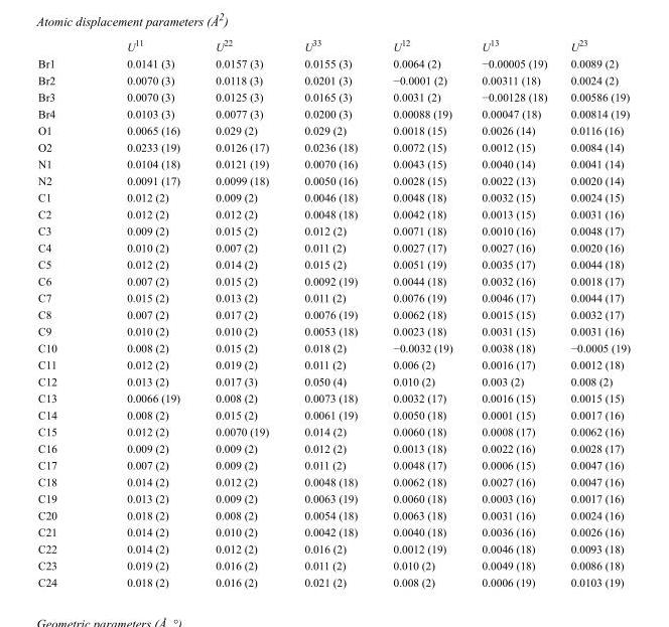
<table><thead><tr><td></td><td>U<sup>11</sup></td><td>U<sup>22</sup></td><td>U<sup>33</sup></td><td>U<sup>12</sup></td><td>U<sup>13</sup></td><td>U<sup>23</sup></td></tr></thead><tbody><tr><td>Br1</td><td>0.0141 (3)</td><td>0.0157 (3)</td><td>0.0155 (3)</td><td>0.0064 (2)</td><td>−0.00005 (19)</td><td>0.0089 (2)</td></tr><tr><td>Br2</td><td>0.0070 (3)</td><td>0.0118 (3)</td><td>0.0201 (3)</td><td>−0.0001 (2)</td><td>0.00311 (18)</td><td>0.0024 (2)</td></tr><tr><td>Br3</td><td>0.0070 (3)</td><td>0.0125 (3)</td><td>0.0165 (3)</td><td>0.0031 (2)</td><td>−0.00128 (18)</td><td>0.00586 (19)</td></tr><tr><td>Br4</td><td>0.0103 (3)</td><td>0.0077 (3)</td><td>0.0200 (3)</td><td>0.00088 (19)</td><td>0.00047 (18)</td><td>0.00814 (19)</td></tr><tr><td>O1</td><td>0.0065 (16)</td><td>0.029 (2)</td><td>0.029 (2)</td><td>0.0018 (15)</td><td>0.0026 (14)</td><td>0.0116 (16)</td></tr><tr><td>O2</td><td>0.0233 (19)</td><td>0.0126 (17)</td><td>0.0236 (18)</td><td>0.0072 (15)</td><td>0.0012 (15)</td><td>0.0084 (14)</td></tr><tr><td>N1</td><td>0.0104 (18)</td><td>0.0121 (19)</td><td>0.0070 (16)</td><td>0.0043 (15)</td><td>0.0040 (14)</td><td>0.0041 (14)</td></tr><tr><td>N2</td><td>0.0091 (17)</td><td>0.0099 (18)</td><td>0.0050 (16)</td><td>0.0028 (15)</td><td>0.0022 (13)</td><td>0.0020 (14)</td></tr><tr><td>C1</td><td>0.012 (2)</td><td>0.009 (2)</td><td>0.0046 (18)</td><td>0.0048 (18)</td><td>0.0032 (15)</td><td>0.0024 (15)</td></tr><tr><td>C2</td><td>0.012 (2)</td><td>0.012 (2)</td><td>0.0048 (18)</td><td>0.0042 (18)</td><td>0.0013 (15)</td><td>0.0031 (16)</td></tr><tr><td>C3</td><td>0.009 (2)</td><td>0.015 (2)</td><td>0.012 (2)</td><td>0.0071 (18)</td><td>0.0010 (16)</td><td>0.0048 (17)</td></tr><tr><td>C4</td><td>0.010 (2)</td><td>0.007 (2)</td><td>0.011 (2)</td><td>0.0027 (17)</td><td>0.0027 (16)</td><td>0.0020 (16)</td></tr><tr><td>C5</td><td>0.012 (2)</td><td>0.014 (2)</td><td>0.015 (2)</td><td>0.0051 (19)</td><td>0.0035 (17)</td><td>0.0044 (18)</td></tr><tr><td>C6</td><td>0.007 (2)</td><td>0.015 (2)</td><td>0.0092 (19)</td><td>0.0044 (18)</td><td>0.0032 (16)</td><td>0.0018 (17)</td></tr><tr><td>C7</td><td>0.015 (2)</td><td>0.013 (2)</td><td>0.011 (2)</td><td>0.0076 (19)</td><td>0.0046 (17)</td><td>0.0044 (17)</td></tr><tr><td>C8</td><td>0.007 (2)</td><td>0.017 (2)</td><td>0.0076 (19)</td><td>0.0062 (18)</td><td>0.0015 (15)</td><td>0.0032 (17)</td></tr><tr><td>C9</td><td>0.010 (2)</td><td>0.010 (2)</td><td>0.0053 (18)</td><td>0.0023 (18)</td><td>0.0031 (15)</td><td>0.0031 (16)</td></tr><tr><td>C10</td><td>0.008 (2)</td><td>0.015 (2)</td><td>0.018 (2)</td><td>−0.0032 (19)</td><td>0.0038 (18)</td><td>−0.0005 (19)</td></tr><tr><td>C11</td><td>0.012 (2)</td><td>0.019 (2)</td><td>0.011 (2)</td><td>0.006 (2)</td><td>0.0016 (17)</td><td>0.0012 (18)</td></tr><tr><td>C12</td><td>0.013 (2)</td><td>0.017 (3)</td><td>0.050 (4)</td><td>0.010 (2)</td><td>0.003 (2)</td><td>0.008 (2)</td></tr><tr><td>C13</td><td>0.0066 (19)</td><td>0.008 (2)</td><td>0.0073 (18)</td><td>0.0032 (17)</td><td>0.0016 (15)</td><td>0.0015 (15)</td></tr><tr><td>C14</td><td>0.008 (2)</td><td>0.015 (2)</td><td>0.0061 (19)</td><td>0.0050 (18)</td><td>0.0001 (15)</td><td>0.0017 (16)</td></tr><tr><td>C15</td><td>0.012 (2)</td><td>0.0070 (19)</td><td>0.014 (2)</td><td>0.0060 (18)</td><td>0.0008 (17)</td><td>0.0062 (16)</td></tr><tr><td>C16</td><td>0.009 (2)</td><td>0.009 (2)</td><td>0.012 (2)</td><td>0.0013 (18)</td><td>0.0022 (16)</td><td>0.0028 (17)</td></tr><tr><td>C17</td><td>0.007 (2)</td><td>0.009 (2)</td><td>0.011 (2)</td><td>0.0048 (17)</td><td>0.0006 (15)</td><td>0.0047 (16)</td></tr><tr><td>C18</td><td>0.014 (2)</td><td>0.012 (2)</td><td>0.0048 (18)</td><td>0.0062 (18)</td><td>0.0027 (16)</td><td>0.0047 (16)</td></tr><tr><td>C19</td><td>0.013 (2)</td><td>0.009 (2)</td><td>0.0063 (19)</td><td>0.0060 (18)</td><td>0.0003 (16)</td><td>0.0017 (16)</td></tr><tr><td>C20</td><td>0.018 (2)</td><td>0.008 (2)</td><td>0.0054 (18)</td><td>0.0063 (18)</td><td>0.0031 (16)</td><td>0.0024 (16)</td></tr><tr><td>C21</td><td>0.014 (2)</td><td>0.010 (2)</td><td>0.0042 (18)</td><td>0.0040 (18)</td><td>0.0036 (16)</td><td>0.0026 (16)</td></tr><tr><td>C22</td><td>0.014 (2)</td><td>0.012 (2)</td><td>0.016 (2)</td><td>0.0012 (19)</td><td>0.0046 (18)</td><td>0.0093 (18)</td></tr><tr><td>C23</td><td>0.019 (2)</td><td>0.016 (2)</td><td>0.011 (2)</td><td>0.010 (2)</td><td>0.0049 (18)</td><td>0.0086 (18)</td></tr><tr><td>C24</td><td>0.018 (2)</td><td>0.016 (2)</td><td>0.021 (2)</td><td>0.008 (2)</td><td>0.0006 (19)</td><td>0.0103 (19)</td></tr></tbody></table>